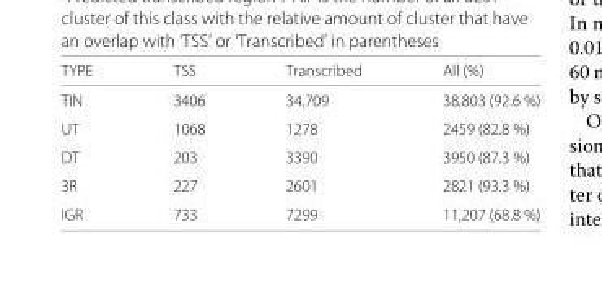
<table><thead><tr><td>TYPE</td><td>TSS</td><td>Transcribed</td><td>All (%)</td></tr></thead><tbody><tr><td>TIN</td><td>3406</td><td>34,709</td><td>38,803 (92.6 %)</td></tr><tr><td>UT</td><td>1068</td><td>1278</td><td>2459 (82.8 %)</td></tr><tr><td>DT</td><td>203</td><td>3390</td><td>3950 (87.3 %)</td></tr><tr><td>3R</td><td>227</td><td>2601</td><td>2821 (93.3 %)</td></tr><tr><td>IGR</td><td>733</td><td>7299</td><td>11,207 (68.8 %)</td></tr></tbody></table>